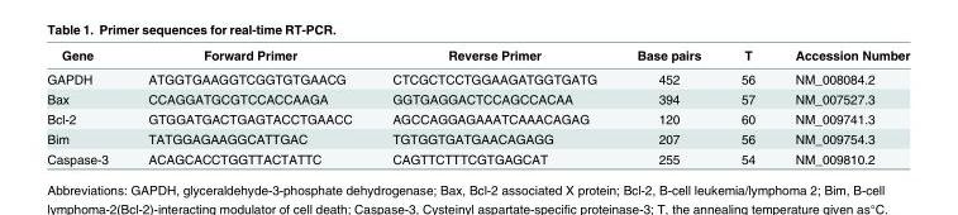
<table><thead><tr><td>Gene</td><td>Forward Primer</td><td>Reverse Primer</td><td>Base pairs</td><td>T</td><td>Accession Number</td></tr></thead><tbody><tr><td>GAPDH</td><td>ATGGTGAAGGTCGGTGTGAACG</td><td>CTCGCTCCTGGAAGATGGTGATG</td><td>452</td><td>56</td><td>NM_008084.2</td></tr><tr><td>Bax</td><td>CCAGGATGCGTCCACCAAGA</td><td>GGTGAGGACTCCAGCCACAA</td><td>394</td><td>57</td><td>NM_007527.3</td></tr><tr><td>Bcl-2</td><td>GTGGATGACTGAGTACCTGAACC</td><td>AGCCAGGAGAAATCAAACAGAG</td><td>120</td><td>60</td><td>NM_009741.3</td></tr><tr><td>Bim</td><td>TATGGAGAAGGCATTGAC</td><td>TGTGGTGATGAACAGAGG</td><td>207</td><td>56</td><td>NM_009754.3</td></tr><tr><td>Caspase-3</td><td>ACAGCACCTGGTTACTATTC</td><td>CAGTTCTTTCGTGAGCAT</td><td>255</td><td>54</td><td>NM_009810.2</td></tr></tbody></table>